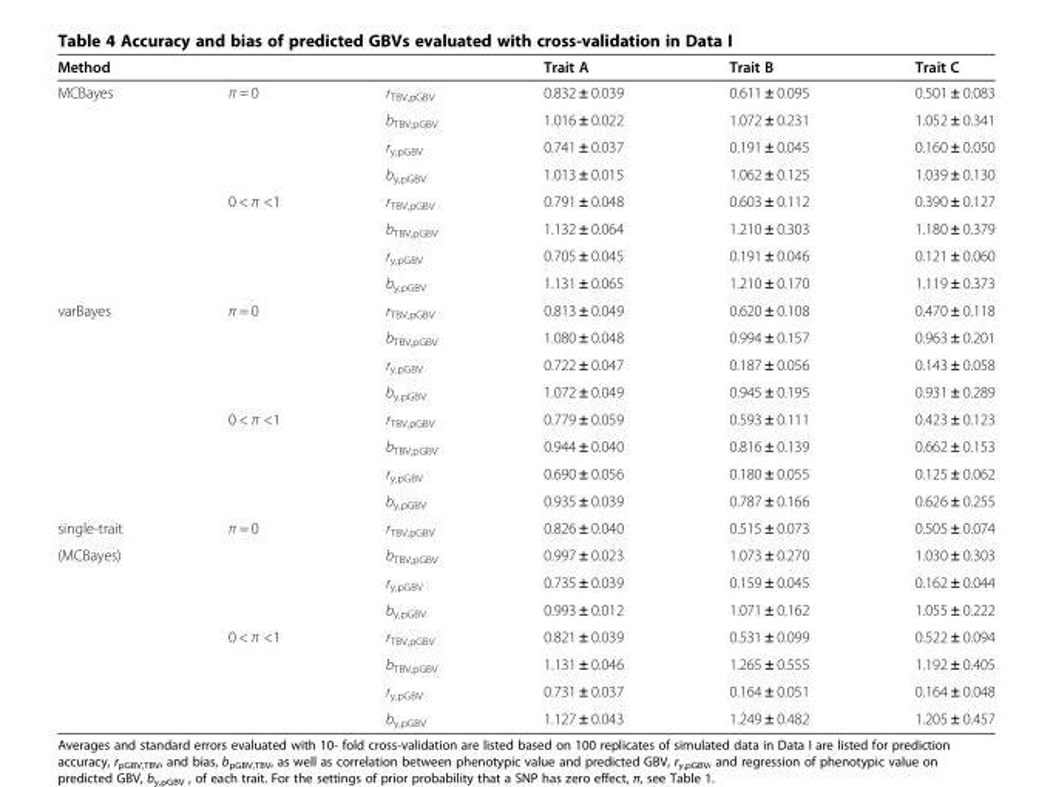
<table><thead><tr><td>Method</td><td></td><td></td><td>Trait A</td><td>Trait B</td><td>Trait C</td></tr></thead><tbody><tr><td rowspan="8">MCBayes</td><td>π = 0</td><td>r<sub>TBV,pGBV</sub></td><td>0.832 ± 0.039</td><td>0.611 ± 0.095</td><td>0.501 ± 0.083</td></tr><tr><td></td><td>b<sub>TBV,pGBV</sub></td><td>1.016 ± 0.022</td><td>1.072 ± 0.231</td><td>1.052 ± 0.341</td></tr><tr><td></td><td>r<sub>y,pGBV</sub></td><td>0.741 ± 0.037</td><td>0.191 ± 0.045</td><td>0.160 ± 0.050</td></tr><tr><td></td><td>b<sub>y,pGBV</sub></td><td>1.013 ± 0.015</td><td>1.062 ± 0.125</td><td>1.039 ± 0.130</td></tr><tr><td>0 &lt; π &lt;1</td><td>r<sub>TBV,pGBV</sub></td><td>0.791 ± 0.048</td><td>0.603 ± 0.112</td><td>0.390 ± 0.127</td></tr><tr><td></td><td>b<sub>TBV,pGBV</sub></td><td>1.132 ± 0.064</td><td>1.210 ± 0.303</td><td>1.180 ± 0.379</td></tr><tr><td></td><td>r<sub>y,pGBV</sub></td><td>0.705 ± 0.045</td><td>0.191 ± 0.046</td><td>0.121 ± 0.060</td></tr><tr><td></td><td>b<sub>y,pGBV</sub></td><td>1.131 ± 0.065</td><td>1.210 ± 0.170</td><td>1.119 ± 0.373</td></tr><tr><td rowspan="8">varBayes</td><td>π = 0</td><td>r<sub>TBV,pGBV</sub></td><td>0.813 ± 0.049</td><td>0.620 ± 0.108</td><td>0.470 ± 0.118</td></tr><tr><td></td><td>b<sub>TBV,pGBV</sub></td><td>1.080 ± 0.048</td><td>0.994 ± 0.157</td><td>0.963 ± 0.201</td></tr><tr><td></td><td>r<sub>y,pGBV</sub></td><td>0.722 ± 0.047</td><td>0.187 ± 0.056</td><td>0.143 ± 0.058</td></tr><tr><td></td><td>b<sub>y,pGBV</sub></td><td>1.072 ± 0.049</td><td>0.945 ± 0.195</td><td>0.931 ± 0.289</td></tr><tr><td>0 &lt; π &lt;1</td><td>r<sub>TBV,pGBV</sub></td><td>0.779 ± 0.059</td><td>0.593 ± 0.111</td><td>0.423 ± 0.123</td></tr><tr><td></td><td>b<sub>TBV,pGBV</sub></td><td>0.944 ± 0.040</td><td>0.816 ± 0.139</td><td>0.662 ± 0.153</td></tr><tr><td></td><td>r<sub>y,pGBV</sub></td><td>0.690 ± 0.056</td><td>0.180 ± 0.055</td><td>0.125 ± 0.062</td></tr><tr><td></td><td>b<sub>y,pGBV</sub></td><td>0.935 ± 0.039</td><td>0.787 ± 0.166</td><td>0.626 ± 0.255</td></tr><tr><td>single-trait</td><td>π = 0</td><td>r<sub>TBV,pGBV</sub></td><td>0.826 ± 0.040</td><td>0.515 ± 0.073</td><td>0.505 ± 0.074</td></tr><tr><td rowspan="7">(MCBayes)</td><td></td><td>b<sub>TBV,pGBV</sub></td><td>0.997 ± 0.023</td><td>1.073 ± 0.270</td><td>1.030 ± 0.303</td></tr><tr><td></td><td>r<sub>y,pGBV</sub></td><td>0.735 ± 0.039</td><td>0.159 ± 0.045</td><td>0.162 ± 0.044</td></tr><tr><td></td><td>b<sub>y,pGBV</sub></td><td>0.993 ± 0.012</td><td>1.071 ± 0.162</td><td>1.055 ± 0.222</td></tr><tr><td>0 &lt; π &lt;1</td><td>r<sub>TBV,pGBV</sub></td><td>0.821 ± 0.039</td><td>0.531 ± 0.099</td><td>0.522 ± 0.094</td></tr><tr><td></td><td>b<sub>TBV,pGBV</sub></td><td>1.131 ± 0.046</td><td>1.265 ± 0.555</td><td>1.192 ± 0.405</td></tr><tr><td></td><td>r<sub>y,pGBV</sub></td><td>0.731 ± 0.037</td><td>0.164 ± 0.051</td><td>0.164 ± 0.048</td></tr><tr><td></td><td>b<sub>y,pGBV</sub></td><td>1.127 ± 0.043</td><td>1.249 ± 0.482</td><td>1.205 ± 0.457</td></tr></tbody></table>